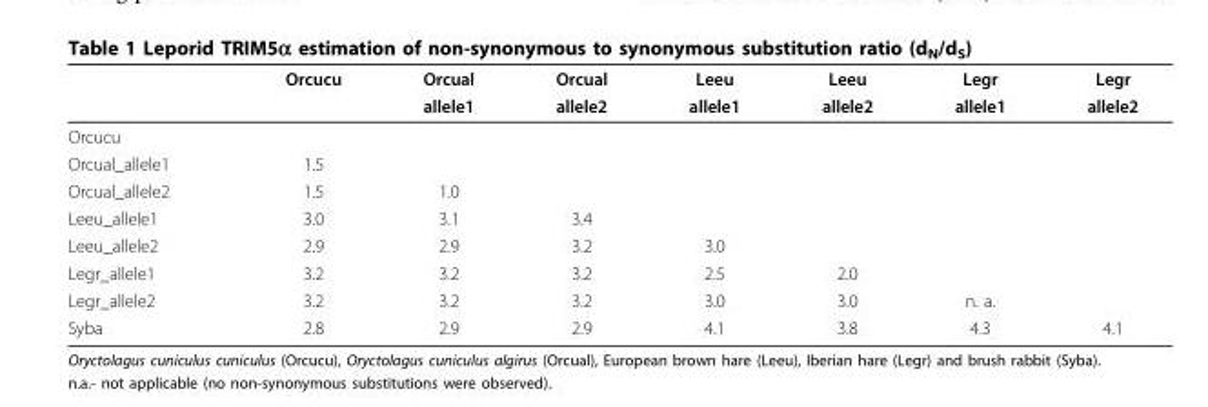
<table><thead><tr><td rowspan="2"></td><td rowspan="2">Orcucu</td><td rowspan="2">Orcual allele1</td><td rowspan="2">Orcual allele2</td><td rowspan="2">Leeu allele1</td><td rowspan="2">Leeu allele2</td><td rowspan="2">Legr allele1</td><td rowspan="2">Legr allele2</td></tr><tr></tr></thead><tbody><tr><td colspan="8">Orcucu</td></tr><tr><td>Orcual_allele1</td><td>1.5</td><td></td><td></td><td></td><td></td><td></td><td></td></tr><tr><td>Orcual_allele2</td><td>1.5</td><td>1.0</td><td></td><td></td><td></td><td></td><td></td></tr><tr><td>Leeu_allele1</td><td>3.0</td><td>3.1</td><td>3.4</td><td></td><td></td><td></td><td></td></tr><tr><td>Leeu_allele2</td><td>2.9</td><td>2.9</td><td>3.2</td><td>3.0</td><td></td><td></td><td></td></tr><tr><td>Legr_allele1</td><td>3.2</td><td>3.2</td><td>3.2</td><td>2.5</td><td>2.0</td><td></td><td></td></tr><tr><td>Legr_allele2</td><td>3.2</td><td>3.2</td><td>3.2</td><td>3.0</td><td>3.0</td><td>n. a.</td><td></td></tr><tr><td>Syba</td><td>2.8</td><td>2.9</td><td>2.9</td><td>4.1</td><td>3.8</td><td>4.3</td><td>4.1</td></tr></tbody></table>